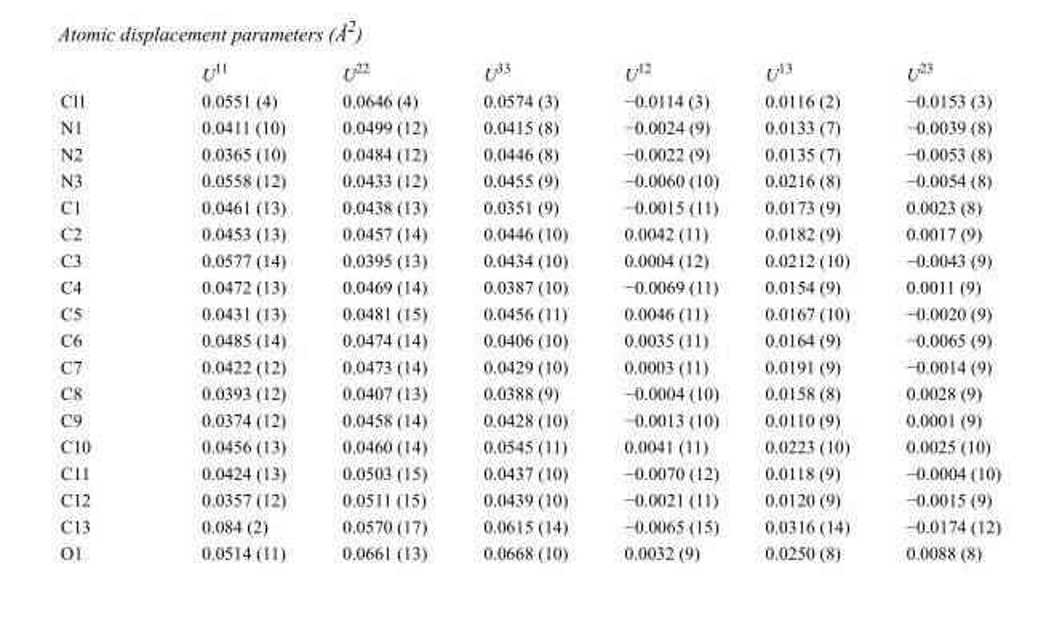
<table><thead><tr><td></td><td>U<sup>11</sup></td><td>U<sup>22</sup></td><td>U<sup>33</sup></td><td>U<sup>12</sup></td><td>U<sup>13</sup></td><td>U<sup>23</sup></td></tr></thead><tbody><tr><td>Cl1</td><td>0.0551 (4)</td><td>0.0646 (4)</td><td>0.0574 (3)</td><td>−0.0114 (3)</td><td>0.0116 (2)</td><td>−0.0153 (3)</td></tr><tr><td>N1</td><td>0.0411 (10)</td><td>0.0499 (12)</td><td>0.0415 (8)</td><td>−0.0024 (9)</td><td>0.0133 (7)</td><td>−0.0039 (8)</td></tr><tr><td>N2</td><td>0.0365 (10)</td><td>0.0484 (12)</td><td>0.0446 (8)</td><td>−0.0022 (9)</td><td>0.0135 (7)</td><td>−0.0053 (8)</td></tr><tr><td>N3</td><td>0.0558 (12)</td><td>0.0433 (12)</td><td>0.0455 (9)</td><td>−0.0060 (10)</td><td>0.0216 (8)</td><td>−0.0054 (8)</td></tr><tr><td>C1</td><td>0.0461 (13)</td><td>0.0438 (13)</td><td>0.0351 (9)</td><td>−0.0015 (11)</td><td>0.0173 (9)</td><td>0.0023 (8)</td></tr><tr><td>C2</td><td>0.0453 (13)</td><td>0.0457 (14)</td><td>0.0446 (10)</td><td>0.0042 (11)</td><td>0.0182 (9)</td><td>0.0017 (9)</td></tr><tr><td>C3</td><td>0.0577 (14)</td><td>0.0395 (13)</td><td>0.0434 (10)</td><td>0.0004 (12)</td><td>0.0212 (10)</td><td>−0.0043 (9)</td></tr><tr><td>C4</td><td>0.0472 (13)</td><td>0.0469 (14)</td><td>0.0387 (10)</td><td>−0.0069 (11)</td><td>0.0154 (9)</td><td>0.0011 (9)</td></tr><tr><td>C5</td><td>0.0431 (13)</td><td>0.0481 (15)</td><td>0.0456 (11)</td><td>0.0046 (11)</td><td>0.0167 (10)</td><td>−0.0020 (9)</td></tr><tr><td>C6</td><td>0.0485 (14)</td><td>0.0474 (14)</td><td>0.0406 (10)</td><td>0.0035 (11)</td><td>0.0164 (9)</td><td>−0.0065 (9)</td></tr><tr><td>C7</td><td>0.0422 (12)</td><td>0.0473 (14)</td><td>0.0429 (10)</td><td>0.0003 (11)</td><td>0.0191 (9)</td><td>−0.0014 (9)</td></tr><tr><td>C8</td><td>0.0393 (12)</td><td>0.0407 (13)</td><td>0.0388 (9)</td><td>−0.0004 (10)</td><td>0.0158 (8)</td><td>0.0028 (9)</td></tr><tr><td>C9</td><td>0.0374 (12)</td><td>0.0458 (14)</td><td>0.0428 (10)</td><td>−0.0013 (10)</td><td>0.0110 (9)</td><td>0.0001 (9)</td></tr><tr><td>C10</td><td>0.0456 (13)</td><td>0.0460 (14)</td><td>0.0545 (11)</td><td>0.0041 (11)</td><td>0.0223 (10)</td><td>0.0025 (10)</td></tr><tr><td>C11</td><td>0.0424 (13)</td><td>0.0503 (15)</td><td>0.0437 (10)</td><td>−0.0070 (12)</td><td>0.0118 (9)</td><td>−0.0004 (10)</td></tr><tr><td>C12</td><td>0.0357 (12)</td><td>0.0511 (15)</td><td>0.0439 (10)</td><td>−0.0021 (11)</td><td>0.0120 (9)</td><td>−0.0015 (9)</td></tr><tr><td>C13</td><td>0.084 (2)</td><td>0.0570 (17)</td><td>0.0615 (14)</td><td>−0.0065 (15)</td><td>0.0316 (14)</td><td>−0.0174 (12)</td></tr><tr><td>O1</td><td>0.0514 (11)</td><td>0.0661 (13)</td><td>0.0668 (10)</td><td>0.0032 (9)</td><td>0.0250 (8)</td><td>0.0088 (8)</td></tr></tbody></table>